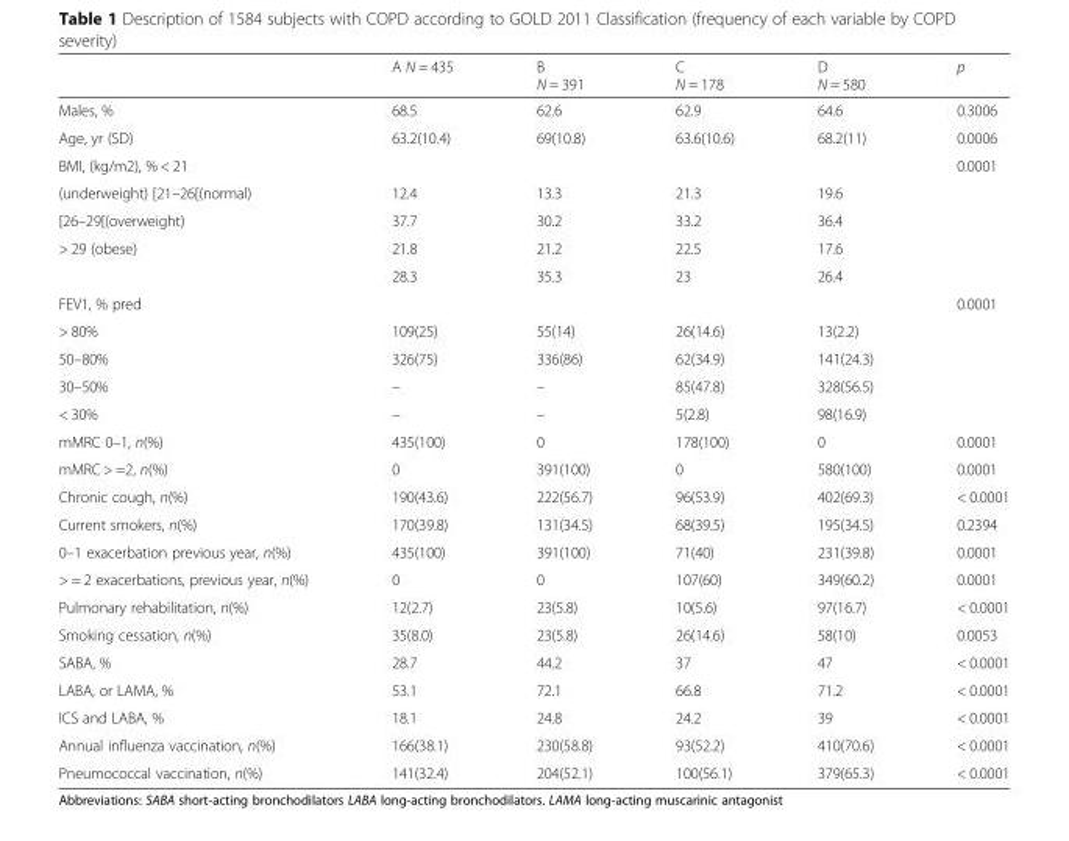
<table><thead><tr><td></td><td>A N = 435</td><td>B N = 391</td><td>C N = 178</td><td>D N = 580</td><td>p</td></tr></thead><tbody><tr><td>Males, %</td><td>68.5</td><td>62.6</td><td>62.9</td><td>64.6</td><td>0.3006</td></tr><tr><td>Age, yr (SD)</td><td>63.2(10.4)</td><td>69(10.8)</td><td>63.6(10.6)</td><td>68.2(11)</td><td>0.0006</td></tr><tr><td>BMI, (kg/m2), % &lt; 21</td><td></td><td></td><td></td><td></td><td>0.0001</td></tr><tr><td>(underweight) [21–26[(normal)</td><td>12.4</td><td>13.3</td><td>21.3</td><td>19.6</td><td></td></tr><tr><td>[26–29[(overweight)</td><td>37.7</td><td>30.2</td><td>33.2</td><td>36.4</td><td></td></tr><tr><td rowspan="2">&gt; 29 (obese)</td><td>21.8</td><td>21.2</td><td>22.5</td><td>17.6</td><td></td></tr><tr><td>28.3</td><td>35.3</td><td>23</td><td>26.4</td><td></td></tr><tr><td>FEV1, % pred</td><td></td><td></td><td></td><td></td><td>0.0001</td></tr><tr><td>&gt; 80%</td><td>109(25)</td><td>55(14)</td><td>26(14.6)</td><td>13(2.2)</td><td></td></tr><tr><td>50–80%</td><td>326(75)</td><td>336(86)</td><td>62(34.9)</td><td>141(24.3)</td><td></td></tr><tr><td>30–50%</td><td>–</td><td>–</td><td>85(47.8)</td><td>328(56.5)</td><td></td></tr><tr><td>&lt; 30%</td><td>–</td><td>–</td><td>5(2.8)</td><td>98(16.9)</td><td></td></tr><tr><td>mMRC 0–1, n(%)</td><td>435(100)</td><td>0</td><td>178(100)</td><td>0</td><td>0.0001</td></tr><tr><td>mMRC &gt; =2, n(%)</td><td>0</td><td>391(100)</td><td>0</td><td>580(100)</td><td>0.0001</td></tr><tr><td>Chronic cough, n(%)</td><td>190(43.6)</td><td>222(56.7)</td><td>96(53.9)</td><td>402(69.3)</td><td>&lt; 0.0001</td></tr><tr><td>Current smokers, n(%)</td><td>170(39.8)</td><td>131(34.5)</td><td>68(39.5)</td><td>195(34.5)</td><td>0.2394</td></tr><tr><td>0–1 exacerbation previous year, n(%)</td><td>435(100)</td><td>391(100)</td><td>71(40)</td><td>231(39.8)</td><td>0.0001</td></tr><tr><td>&gt; = 2 exacerbations, previous year, n(%)</td><td>0</td><td>0</td><td>107(60)</td><td>349(60.2)</td><td>0.0001</td></tr><tr><td>Pulmonary rehabilitation, n(%)</td><td>12(2.7)</td><td>23(5.8)</td><td>10(5.6)</td><td>97(16.7)</td><td>&lt; 0.0001</td></tr><tr><td>Smoking cessation, n(%)</td><td>35(8.0)</td><td>23(5.8)</td><td>26(14.6)</td><td>58(10)</td><td>0.0053</td></tr><tr><td>SABA, %</td><td>28.7</td><td>44.2</td><td>37</td><td>47</td><td>&lt; 0.0001</td></tr><tr><td>LABA, or LAMA, %</td><td>53.1</td><td>72.1</td><td>66.8</td><td>71.2</td><td>&lt; 0.0001</td></tr><tr><td>ICS and LABA, %</td><td>18.1</td><td>24.8</td><td>24.2</td><td>39</td><td>&lt; 0.0001</td></tr><tr><td>Annual influenza vaccination, n(%)</td><td>166(38.1)</td><td>230(58.8)</td><td>93(52.2)</td><td>410(70.6)</td><td>&lt; 0.0001</td></tr><tr><td>Pneumococcal vaccination, n(%)</td><td>141(32.4)</td><td>204(52.1)</td><td>100(56.1)</td><td>379(65.3)</td><td>&lt; 0.0001</td></tr></tbody></table>